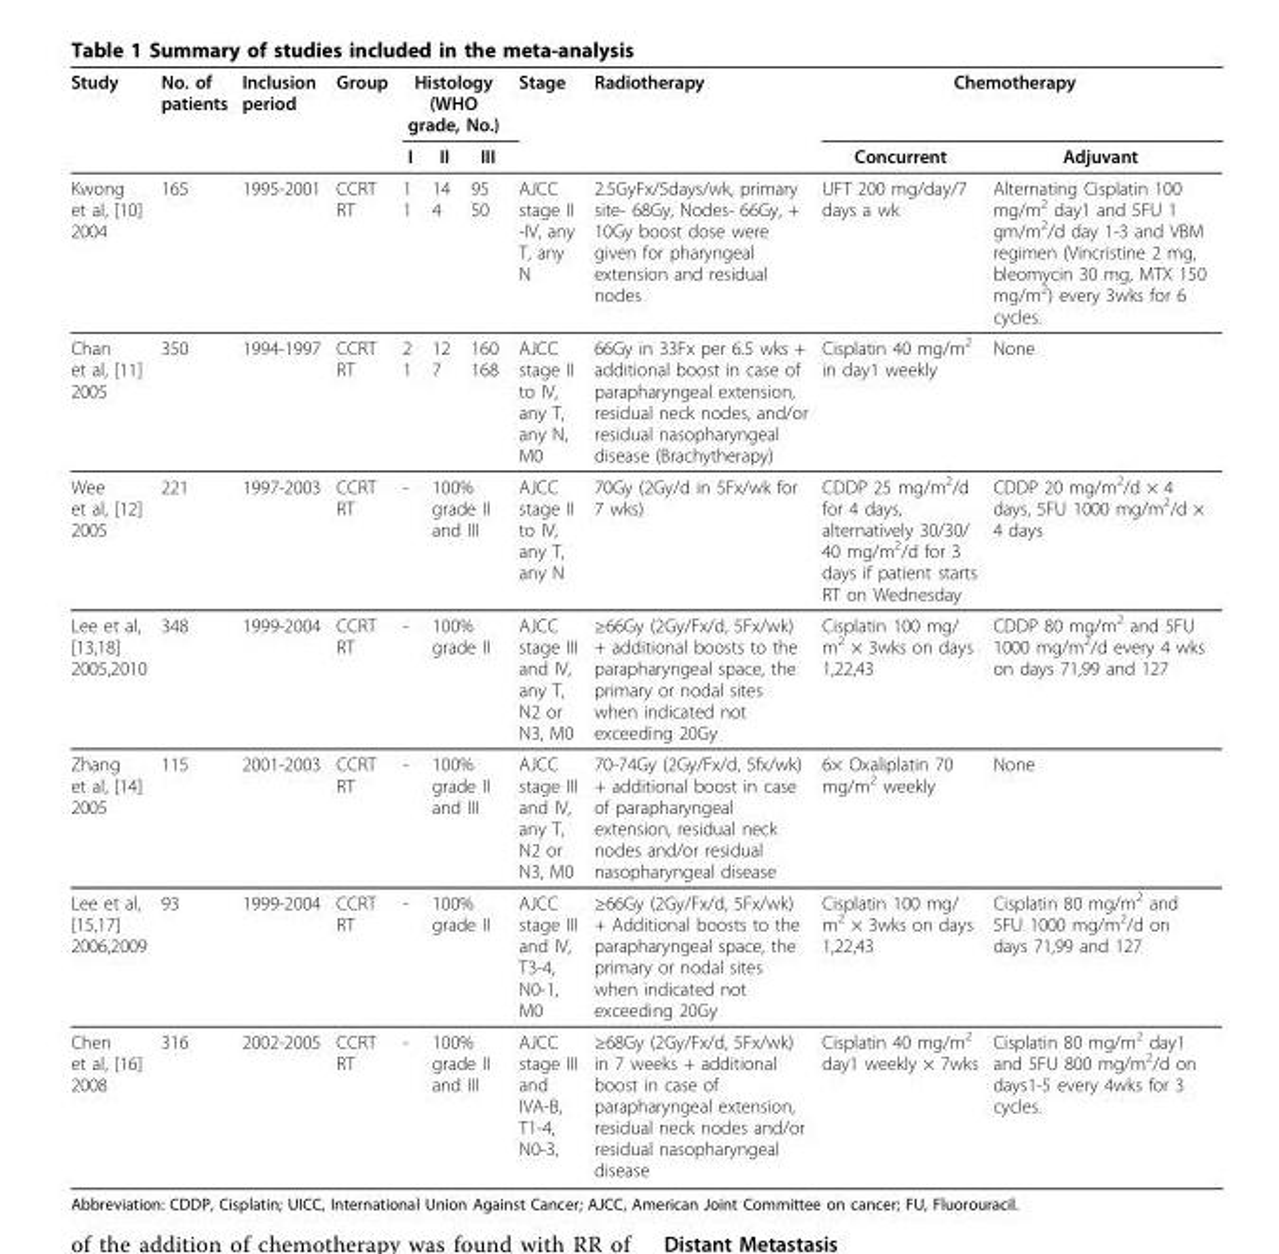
<table><thead><tr><td rowspan="2">Study</td><td rowspan="2">No. of patients</td><td rowspan="2">Inclusion period</td><td rowspan="2">Group</td><td colspan="3">Histology (WHO grade, No.)</td><td rowspan="2">Stage</td><td rowspan="2">Radiotherapy</td><td colspan="2">Chemotherapy</td></tr><tr><td>I</td><td>II</td><td>III</td><td>Concurrent</td><td>Adjuvant</td></tr></thead><tbody><tr><td>Kwong et al, [10] 2004</td><td>165</td><td>1995-2001</td><td>CCRT RT</td><td>1 1</td><td>14 4</td><td>95 50</td><td>AJCC stage II -IV, any T, any N</td><td>2.5GyFx/5days/wk, primary site- 68Gy, Nodes- 66Gy, + 10Gy boost dose were given for pharyngeal extension and residual nodes</td><td>UFT 200 mg/day/7 days a wk</td><td>Alternating Cisplatin 100 mg/m<sup>2</sup> day1 and 5FU 1 gm/m<sup>2</sup>/d day 1-3 and VBM regimen (Vincristine 2 mg, bleomycin 30 mg, MTX 150 mg/m<sup>2</sup>) every 3wks for 6 cycles.</td></tr><tr><td>Chan et al, [11] 2005</td><td>350</td><td>1994-1997</td><td>CCRT RT</td><td>2 1</td><td>12 7</td><td>160 168</td><td>AJCC stage II to IV, any T, any N, M0</td><td>66Gy in 33Fx per 6.5 wks + additional boost in case of parapharyngeal extension, residual neck nodes, and/or residual nasopharyngeal disease (Brachytherapy)</td><td>Cisplatin 40 mg/m<sup>2</sup> in day1 weekly</td><td>None</td></tr><tr><td>Wee et al, [12] 2005</td><td>221</td><td>1997-2003</td><td>CCRT RT</td><td>-</td><td colspan="2">100% grade II and III</td><td>AJCC stage II to IV, any T, any N</td><td>70Gy (2Gy/d in 5Fx/wk for 7 wks)</td><td>CDDP 25 mg/m<sup>2</sup>/d for 4 days, alternatively 30/30/ 40 mg/m<sup>2</sup>/d for 3 days if patient starts RT on Wednesday</td><td>CDDP 20 mg/m<sup>2</sup>/d × 4 days, 5FU 1000 mg/m<sup>2</sup>/d × 4 days</td></tr><tr><td>Lee et al, [13,18] 2005,2010</td><td>348</td><td>1999-2004</td><td>CCRT RT</td><td>-</td><td colspan="2">100% grade II</td><td>AJCC stage III and IV, any T, N2 or N3, M0</td><td>≥66Gy (2Gy/Fx/d, 5Fx/wk) + additional boosts to the parapharyngeal space, the primary or nodal sites when indicated not exceeding 20Gy</td><td>Cisplatin 100 mg/ m<sup>2</sup> × 3wks on days 1,22,43</td><td>CDDP 80 mg/m<sup>2</sup> and 5FU 1000 mg/m<sup>2</sup>/d every 4 wks on days 71,99 and 127</td></tr><tr><td>Zhang et al, [14] 2005</td><td>115</td><td>2001-2003</td><td>CCRT RT</td><td>-</td><td colspan="2">100% grade II and III</td><td>AJCC stage III and IV, any T, N2 or N3, M0</td><td>70-74Gy (2Gy/Fx/d, 5fx/wk) + additional boost in case of parapharyngeal extension, residual neck nodes and/or residual nasopharyngeal disease</td><td>6× Oxaliplatin 70 mg/m<sup>2</sup> weekly</td><td>None</td></tr><tr><td>Lee et al, [15,17] 2006,2009</td><td>93</td><td>1999-2004</td><td>CCRT RT</td><td>-</td><td colspan="2">100% grade II</td><td>AJCC stage III and IV, T3-4, N0-1, M0</td><td>≥66Gy (2Gy/Fx/d, 5Fx/wk) + Additional boosts to the parapharyngeal space, the primary or nodal sites when indicated not exceeding 20Gy</td><td>Cisplatin 100 mg/ m<sup>2</sup> × 3wks on days 1,22,43</td><td>Cisplatin 80 mg/m<sup>2</sup> and 5FU 1000 mg/m<sup>2</sup>/d on days 71,99 and 127</td></tr><tr><td>Chen et al, [16] 2008</td><td>316</td><td>2002-2005</td><td>CCRT RT</td><td>-</td><td colspan="2">100% grade II and III</td><td>AJCC stage III and IVA-B, T1-4, N0-3,</td><td>≥68Gy (2Gy/Fx/d, 5Fx/wk) in 7 weeks + additional boost in case of parapharyngeal extension, residual neck nodes and/or residual nasopharyngeal disease</td><td>Cisplatin 40 mg/m<sup>2</sup> day1 weekly × 7wks</td><td>Cisplatin 80 mg/m<sup>2</sup> day1 and 5FU 800 mg/m<sup>2</sup>/d on days1-5 every 4wks for 3 cycles.</td></tr></tbody></table>